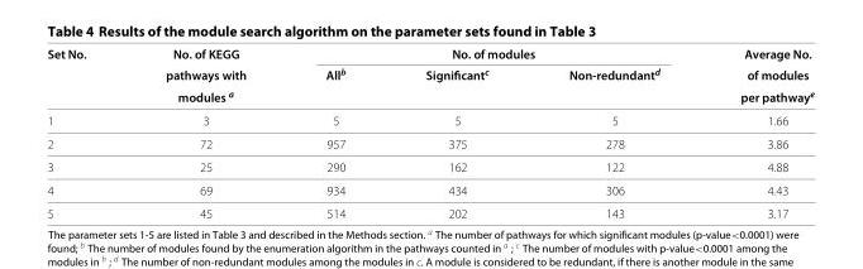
<table><thead><tr><td rowspan="3">Set No.</td><td rowspan="3">No. of KEGG pathways with modules <sup>a</sup></td><td colspan="3">No. of modules</td><td rowspan="3">Average No. of modules per pathway<sup>e</sup></td></tr><tr><td rowspan="2">All<sup>b</sup></td><td rowspan="2">Significant<sup>c</sup></td><td rowspan="2">Non-redundant<sup>d</sup></td></tr><tr></tr></thead><tbody><tr><td>1</td><td>3</td><td>5</td><td>5</td><td>5</td><td>1.66</td></tr><tr><td>2</td><td>72</td><td>957</td><td>375</td><td>278</td><td>3.86</td></tr><tr><td>3</td><td>25</td><td>290</td><td>162</td><td>122</td><td>4.88</td></tr><tr><td>4</td><td>69</td><td>934</td><td>434</td><td>306</td><td>4.43</td></tr><tr><td>5</td><td>45</td><td>514</td><td>202</td><td>143</td><td>3.17</td></tr></tbody></table>